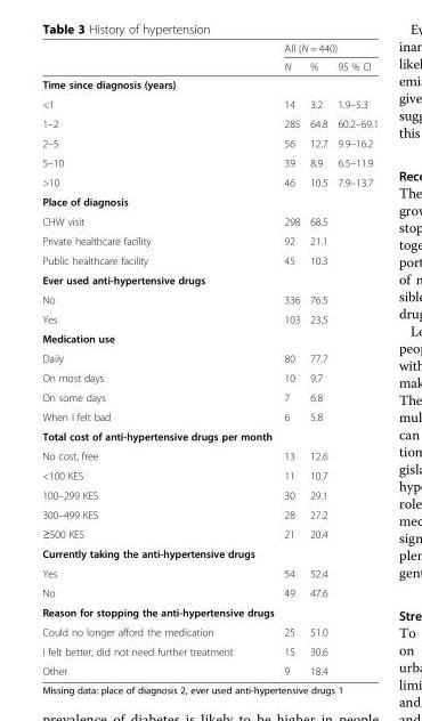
<table><thead><tr><td rowspan="2"></td><td colspan="3">All (N = 440)</td></tr><tr><td>N</td><td>%</td><td>95 % CI</td></tr></thead><tbody><tr><td colspan="4">Time since diagnosis (years)</td></tr><tr><td>&lt;1</td><td>14</td><td>3.2</td><td>1.9–5.3</td></tr><tr><td>1–2</td><td>285</td><td>64.8</td><td>60.2–69.1</td></tr><tr><td>2–5</td><td>56</td><td>12.7</td><td>9.9–16.2</td></tr><tr><td>5–10</td><td>39</td><td>8.9</td><td>6.5–11.9</td></tr><tr><td>&gt;10</td><td>46</td><td>10.5</td><td>7.9–13.7</td></tr><tr><td colspan="4">Place of diagnosis</td></tr><tr><td>CHW visit</td><td>298</td><td>68.5</td><td></td></tr><tr><td>Private healthcare facility</td><td>92</td><td>21.1</td><td></td></tr><tr><td>Public healthcare facility</td><td>45</td><td>10.3</td><td></td></tr><tr><td colspan="4">Ever used anti-hypertensive drugs</td></tr><tr><td>No</td><td>336</td><td>76.5</td><td></td></tr><tr><td>Yes</td><td>103</td><td>23.5</td><td></td></tr><tr><td colspan="4">Medication use</td></tr><tr><td>Daily</td><td>80</td><td>77.7</td><td></td></tr><tr><td>On most days</td><td>10</td><td>9.7</td><td></td></tr><tr><td>On some days</td><td>7</td><td>6.8</td><td></td></tr><tr><td>When I felt bad</td><td>6</td><td>5.8</td><td></td></tr><tr><td colspan="4">Total cost of anti-hypertensive drugs per month</td></tr><tr><td>No cost, free</td><td>13</td><td>12.6</td><td></td></tr><tr><td>&lt;100 KES</td><td>11</td><td>10.7</td><td></td></tr><tr><td>100–299 KES</td><td>30</td><td>29.1</td><td></td></tr><tr><td>300–499 KES</td><td>28</td><td>27.2</td><td></td></tr><tr><td>≥500 KES</td><td>21</td><td>20.4</td><td></td></tr><tr><td colspan="4">Currently taking the anti-hypertensive drugs</td></tr><tr><td>Yes</td><td>54</td><td>52.4</td><td></td></tr><tr><td>No</td><td>49</td><td>47.6</td><td></td></tr><tr><td colspan="4">Reason for stopping the anti-hypertensive drugs</td></tr><tr><td>Could no longer afford the medication</td><td>25</td><td>51.0</td><td></td></tr><tr><td>I felt better, did not need further treatment</td><td>15</td><td>30.6</td><td></td></tr><tr><td>Other</td><td>9</td><td>18.4</td><td></td></tr></tbody></table>